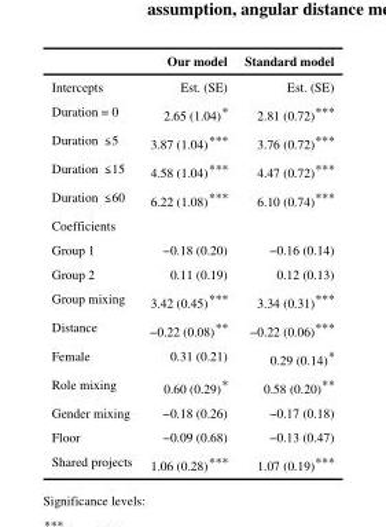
<table><thead><tr><td></td><td>Our model</td><td>Standard model</td></tr></thead><tbody><tr><td>Intercepts</td><td>Est. (SE)</td><td>Est. (SE)</td></tr><tr><td>Duration = 0</td><td>2.65 (1.04)*</td><td>2.81 (0.72)***</td></tr><tr><td>Duration ≤ 5</td><td>3.87 (1.04)***</td><td>3.76 (0.72)***</td></tr><tr><td>Duration ≤ 15</td><td>4.58 (1.04)***</td><td>4.47 (0.72)***</td></tr><tr><td>Duration ≤ 60</td><td>6.22 (1.08)***</td><td>6.10 (0.74)***</td></tr><tr><td colspan="3">Coefficients</td></tr><tr><td>Group 1</td><td>−0.18 (0.20)</td><td>−0.16 (0.14)</td></tr><tr><td>Group 2</td><td>0.11 (0.19)</td><td>0.12 (0.13)</td></tr><tr><td>Group mixing</td><td>3.42 (0.45)***</td><td>3.34 (0.31)***</td></tr><tr><td>Distance</td><td>−0.22 (0.08)**</td><td>−0.22 (0.06)***</td></tr><tr><td>Female</td><td>0.31 (0.21)</td><td>0.29 (0.14)*</td></tr><tr><td>Role mixing</td><td>0.60 (0.29)*</td><td>0.58 (0.20)**</td></tr><tr><td>Gender mixing</td><td>−0.18 (0.26)</td><td>−0.17 (0.18)</td></tr><tr><td>Floor</td><td>−0.09 (0.68)</td><td>−0.13 (0.47)</td></tr><tr><td>Shared projects</td><td>1.06 (0.28)***</td><td>1.07 (0.19)***</td></tr></tbody></table>